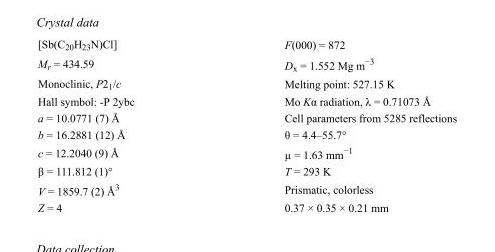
<table><tbody><tr><td>[Sb(C<sub>20</sub>H<sub>23</sub>N)Cl]</td><td>F(000) = 872</td></tr><tr><td>M<sub>r</sub> = 434.59</td><td>D<sub>x</sub> = 1.552 Mg m<sup>−3</sup></td></tr><tr><td>Monoclinic, P2<sub>1</sub>/c</td><td>Melting point: 527.15 K</td></tr><tr><td>Hall symbol: -P 2ybc</td><td>Mo Kα radiation, λ = 0.71073 Å</td></tr><tr><td>a = 10.0771 (7) Å</td><td>Cell parameters from 5285 reflections</td></tr><tr><td>b = 16.2881 (12) Å</td><td>θ = 4.4–55.7°</td></tr><tr><td>c = 12.2040 (9) Å</td><td>µ = 1.63 mm<sup>−1</sup></td></tr><tr><td>β = 111.812 (1)°</td><td>T = 293 K</td></tr><tr><td>V = 1859.7 (2) Å<sup>3</sup></td><td>Prismatic, colorless</td></tr><tr><td>Z = 4</td><td>0.37 × 0.35 × 0.21 mm</td></tr></tbody></table>